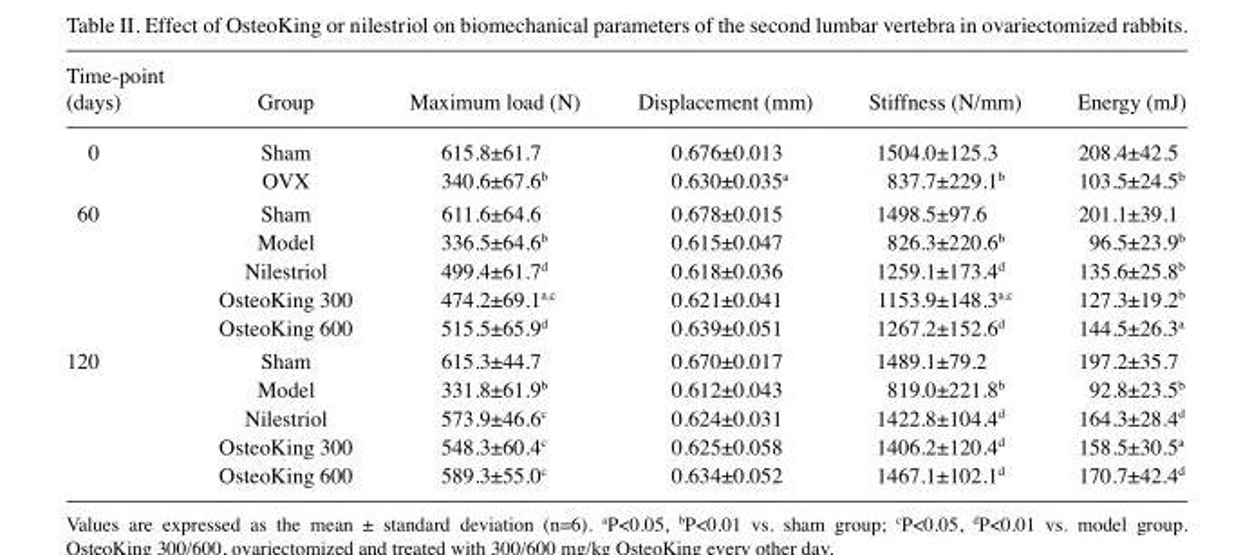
<table><thead><tr><td>Time-point (days)</td><td>Group</td><td>Maximum load (N)</td><td>Displacement (mm)</td><td>Stiffness (N/mm)</td><td>Energy (mJ)</td></tr></thead><tbody><tr><td rowspan="2">0</td><td>Sham</td><td>615.8±61.7</td><td>0.676±0.013</td><td>1504.0±125.3</td><td>208.4±42.5</td></tr><tr><td>OVX</td><td>340.6±67.6<sup>b</sup></td><td>0.630±0.035<sup>a</sup></td><td>837.7±229.1<sup>b</sup></td><td>103.5±24.5<sup>b</sup></td></tr><tr><td rowspan="5">60</td><td>Sham</td><td>611.6±64.6</td><td>0.678±0.015</td><td>1498.5±97.6</td><td>201.1±39.1</td></tr><tr><td>Model</td><td>336.5±64.6<sup>b</sup></td><td>0.615±0.047</td><td>826.3±220.6<sup>b</sup></td><td>96.5±23.9<sup>b</sup></td></tr><tr><td>Nilestriol</td><td>499.4±61.7<sup>d</sup></td><td>0.618±0.036</td><td>1259.1±173.4<sup>d</sup></td><td>135.6±25.8<sup>b</sup></td></tr><tr><td>OsteoKing 300</td><td>474.2±69.1<sup>a</sup>,<sup>c</sup></td><td>0.621±0.041</td><td>1153.9±148.3<sup>a</sup>,<sup>c</sup></td><td>127.3±19.2<sup>b</sup></td></tr><tr><td>OsteoKing 600</td><td>515.5±65.9<sup>d</sup></td><td>0.639±0.051</td><td>1267.2±152.6<sup>d</sup></td><td>144.5±26.3<sup>a</sup></td></tr><tr><td rowspan="5">120</td><td>Sham</td><td>615.3±44.7</td><td>0.670±0.017</td><td>1489.1±79.2</td><td>197.2±35.7</td></tr><tr><td>Model</td><td>331.8±61.9<sup>b</sup></td><td>0.612±0.043</td><td>819.0±221.8<sup>b</sup></td><td>92.8±23.5<sup>b</sup></td></tr><tr><td>Nilestriol</td><td>573.9±46.6<sup>c</sup></td><td>0.624±0.031</td><td>1422.8±104.4<sup>d</sup></td><td>164.3±28.4<sup>d</sup></td></tr><tr><td>OsteoKing 300</td><td>548.3±60.4<sup>c</sup></td><td>0.625±0.058</td><td>1406.2±120.4<sup>d</sup></td><td>158.5±30.5<sup>a</sup></td></tr><tr><td>OsteoKing 600</td><td>589.3±55.0<sup>c</sup></td><td>0.634±0.052</td><td>1467.1±102.1<sup>d</sup></td><td>170.7±42.4<sup>d</sup></td></tr></tbody></table>